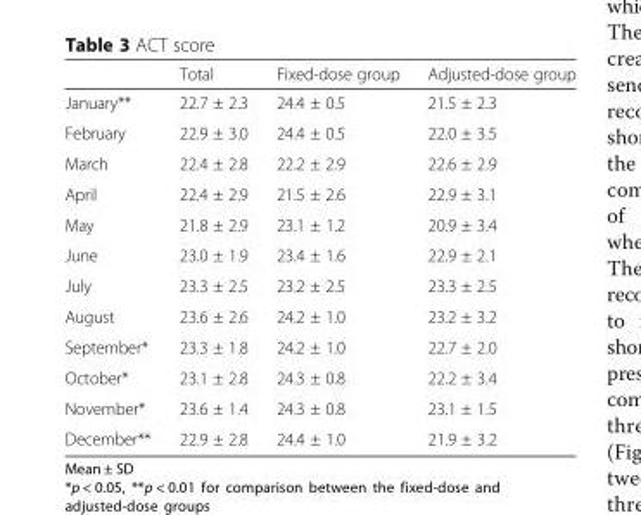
<table><thead><tr><td></td><td>Total</td><td>Fixed-dose group</td><td>Adjusted-dose group</td></tr></thead><tbody><tr><td>January**</td><td>22.7 ± 2.3</td><td>24.4 ± 0.5</td><td>21.5 ± 2.3</td></tr><tr><td>February</td><td>22.9 ± 3.0</td><td>24.4 ± 0.5</td><td>22.0 ± 3.5</td></tr><tr><td>March</td><td>22.4 ± 2.8</td><td>22.2 ± 2.9</td><td>22.6 ± 2.9</td></tr><tr><td>April</td><td>22.4 ± 2.9</td><td>21.5 ± 2.6</td><td>22.9 ± 3.1</td></tr><tr><td>May</td><td>21.8 ± 2.9</td><td>23.1 ± 1.2</td><td>20.9 ± 3.4</td></tr><tr><td>June</td><td>23.0 ± 1.9</td><td>23.4 ± 1.6</td><td>22.9 ± 2.1</td></tr><tr><td>July</td><td>23.3 ± 2.5</td><td>23.2 ± 2.5</td><td>23.3 ± 2.5</td></tr><tr><td>August</td><td>23.6 ± 2.6</td><td>24.2 ± 1.0</td><td>23.2 ± 3.2</td></tr><tr><td>September*</td><td>23.3 ± 1.8</td><td>24.2 ± 1.0</td><td>22.7 ± 2.0</td></tr><tr><td>October*</td><td>23.1 ± 2.8</td><td>24.3 ± 0.8</td><td>22.2 ± 3.4</td></tr><tr><td>November*</td><td>23.6 ± 1.4</td><td>24.3 ± 0.8</td><td>23.1 ± 1.5</td></tr><tr><td>December**</td><td>22.9 ± 2.8</td><td>24.4 ± 1.0</td><td>21.9 ± 3.2</td></tr></tbody></table>